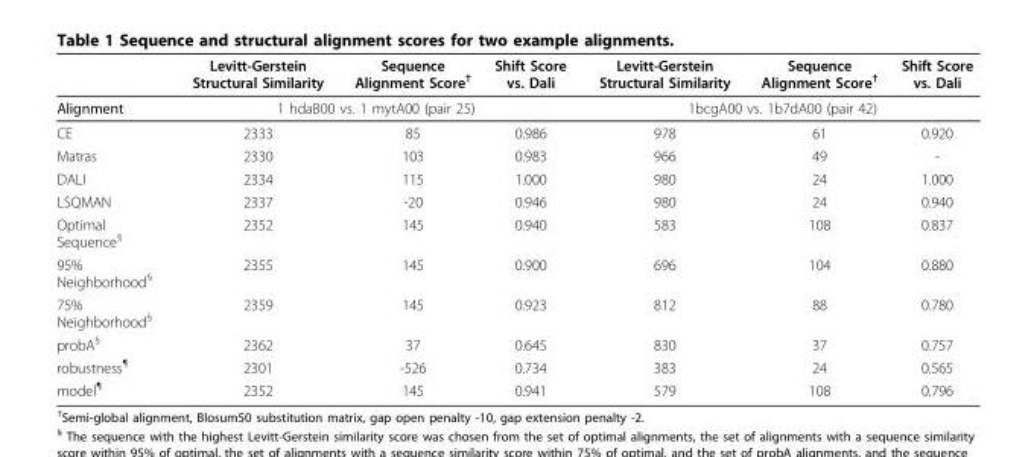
<table><thead><tr><td></td><td>Levitt-Gerstein Structural Similarity</td><td>Sequence Alignment Score<sup>†</sup></td><td>Shift Score vs. Dali</td><td>Levitt-Gerstein Structural Similarity</td><td>Sequence Alignment Score<sup>†</sup></td><td>Shift Score vs. Dali</td></tr></thead><tbody><tr><td>Alignment</td><td colspan="3">1 hdaB00 vs. 1 mytA00 (pair 25)</td><td colspan="3">1bcgA00 vs. 1b7dA00 (pair 42)</td></tr><tr><td>CE</td><td>2333</td><td>85</td><td>0.986</td><td>978</td><td>61</td><td>0.920</td></tr><tr><td>Matras</td><td>2330</td><td>103</td><td>0.983</td><td>966</td><td>49</td><td>-</td></tr><tr><td>DALI</td><td>2334</td><td>115</td><td>1.000</td><td>980</td><td>24</td><td>1.000</td></tr><tr><td>LSQMAN</td><td>2337</td><td>-20</td><td>0.946</td><td>980</td><td>24</td><td>0.940</td></tr><tr><td>Optimal Sequence<sup>§</sup></td><td>2352</td><td>145</td><td>0.940</td><td>583</td><td>108</td><td>0.837</td></tr><tr><td>95% Neighborhood<sup>§</sup></td><td>2355</td><td>145</td><td>0.900</td><td>696</td><td>104</td><td>0.880</td></tr><tr><td>75% Neighborhood<sup>§</sup></td><td>2359</td><td>145</td><td>0.923</td><td>812</td><td>88</td><td>0.780</td></tr><tr><td>probA<sup>§</sup></td><td>2362</td><td>37</td><td>0.645</td><td>830</td><td>37</td><td>0.757</td></tr><tr><td>robustness<sup>¶</sup></td><td>2301</td><td>-526</td><td>0.734</td><td>383</td><td>24</td><td>0.565</td></tr><tr><td>model<sup>¶</sup></td><td>2352</td><td>145</td><td>0.941</td><td>579</td><td>108</td><td>0.796</td></tr></tbody></table>